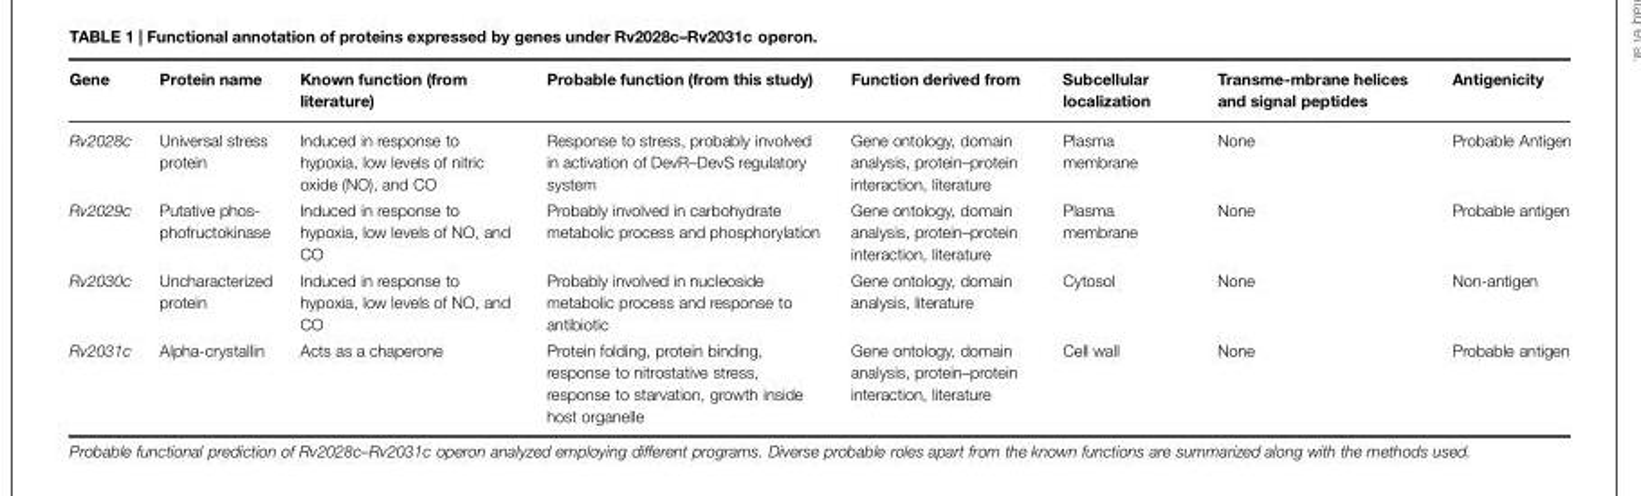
<table><thead><tr><td>Gene</td><td>Protein name</td><td>Known function (from literature)</td><td>Probable function (from this study)</td><td>Function derived from</td><td>Subcellular localization</td><td>Transme-mbrane helices and signal peptides</td><td>Antigenicity</td></tr></thead><tbody><tr><td>Rv2028c</td><td>Universal stress protein</td><td>Induced in response to hypoxia, low levels of nitric oxide (NO), and CO</td><td>Response to stress, probably involved in activation of DevR–DevS regulatory system</td><td>Gene ontology, domain analysis, protein–protein interaction, literature</td><td>Plasma membrane</td><td>None</td><td>Probable Antigen</td></tr><tr><td>Rv2029c</td><td>Putative phos- phofructokinase</td><td>Induced in response to hypoxia, low levels of NO, and CO</td><td>Probably involved in carbohydrate metabolic process and phosphorylation</td><td>Gene ontology, domain analysis, protein–protein interaction, literature</td><td>Plasma membrane</td><td>None</td><td>Probable antigen</td></tr><tr><td>Rv2030c</td><td>Uncharacterized protein</td><td>Induced in response to hypoxia, low levels of NO, and CO</td><td>Probably involved in nucleoside metabolic process and response to antibiotic</td><td>Gene ontology, domain analysis, literature</td><td>Cytosol</td><td>None</td><td>Non-antigen</td></tr><tr><td>Rv2031c</td><td>Alpha-crystallin</td><td>Acts as a chaperone</td><td>Protein folding, protein binding, response to nitrostative stress, response to starvation, growth inside host organelle</td><td>Gene ontology, domain analysis, protein–protein interaction, literature</td><td>Cell wall</td><td>None</td><td>Probable antigen</td></tr></tbody></table>